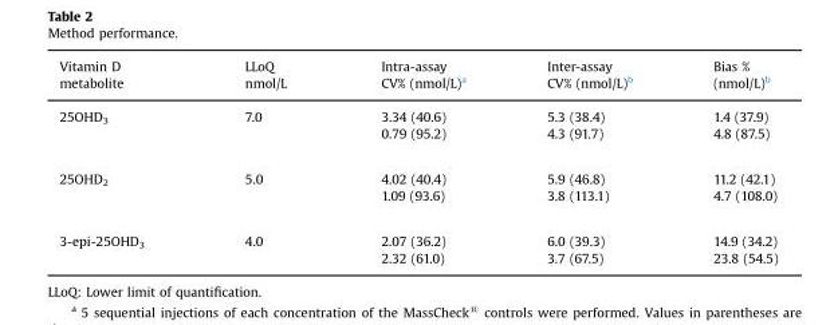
<table><thead><tr><td>Vitamin D metabolite</td><td>LLoQ nmol/L</td><td>Intra-assay CV% (nmol/L)<sup>a</sup></td><td>Inter-assay CV% (nmol/L)<sup>b</sup></td><td>Bias % (nmol/L)<sup>b</sup></td></tr></thead><tbody><tr><td rowspan="2">25OHD<sub>3</sub></td><td rowspan="2">7.0</td><td>3.34 (40.6)</td><td>5.3 (38.4)</td><td>1.4 (37.9)</td></tr><tr><td>0.79 (95.2)</td><td>4.3 (91.7)</td><td>4.8 (87.5)</td></tr><tr><td rowspan="2">25OHD<sub>2</sub></td><td rowspan="2">5.0</td><td>4.02 (40.4)</td><td>5.9 (46.8)</td><td>11.2 (42.1)</td></tr><tr><td>1.09 (93.6)</td><td>3.8 (113.1)</td><td>4.7 (108.0)</td></tr><tr><td rowspan="2">3-epi-25OHD<sub>3</sub></td><td rowspan="2">4.0</td><td>2.07 (36.2)</td><td>6.0 (39.3)</td><td>14.9 (34.2)</td></tr><tr><td>2.32 (61.0)</td><td>3.7 (67.5)</td><td>23.8 (54.5)</td></tr></tbody></table>